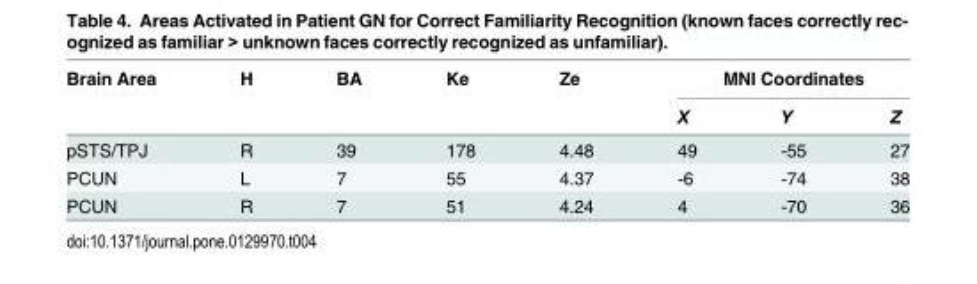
<table><thead><tr><td rowspan="2">Brain Area</td><td rowspan="2">H</td><td rowspan="2">BA</td><td rowspan="2">Ke</td><td rowspan="2">Ze</td><td colspan="3">MNI Coordinates</td></tr><tr><td>X</td><td>Y</td><td>Z</td></tr></thead><tbody><tr><td>pSTS/TPJ</td><td>R</td><td>39</td><td>178</td><td>4.48</td><td>49</td><td>-55</td><td>27</td></tr><tr><td>PCUN</td><td>L</td><td>7</td><td>55</td><td>4.37</td><td>-6</td><td>-74</td><td>38</td></tr><tr><td>PCUN</td><td>R</td><td>7</td><td>51</td><td>4.24</td><td>4</td><td>-70</td><td>36</td></tr></tbody></table>